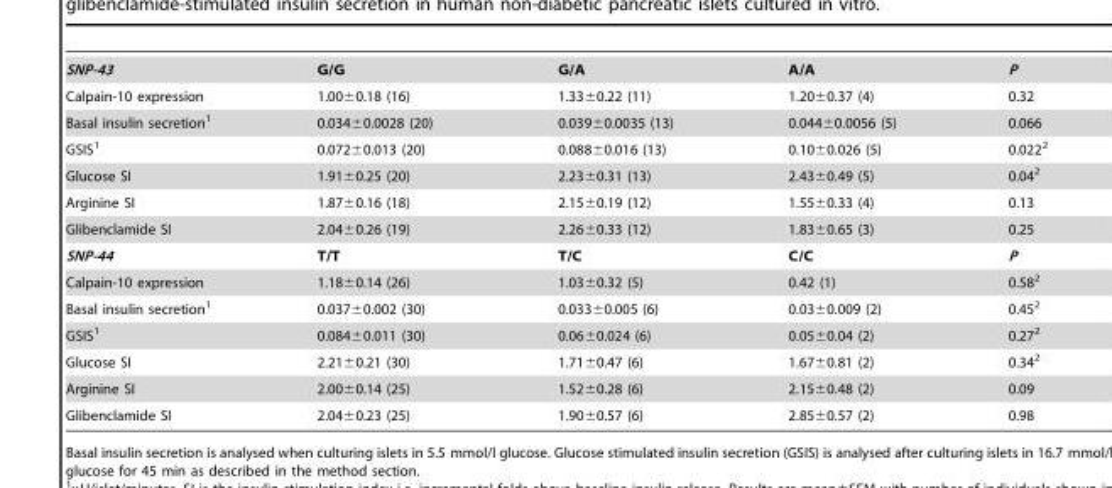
<table><tbody><tr><td>SNP-43</td><td>G/G</td><td>G/A</td><td>A/A</td><td>P</td></tr><tr><td>Calpain-10 expression</td><td>1.00±0.18 (16)</td><td>1.33±0.22 (11)</td><td>1.20±0.37 (4)</td><td>0.32</td></tr><tr><td>Basal insulin secretion<sup>1</sup></td><td>0.034±0.0028 (20)</td><td>0.039±0.0035 (13)</td><td>0.044±0.0056 (5)</td><td>0.066</td></tr><tr><td>GSIS<sup>1</sup></td><td>0.072±0.013 (20)</td><td>0.088±0.016 (13)</td><td>0.10±0.026 (5)</td><td>0.022<sup>2</sup></td></tr><tr><td>Glucose SI</td><td>1.91±0.25 (20)</td><td>2.23±0.31 (13)</td><td>2.43±0.49 (5)</td><td>0.04<sup>2</sup></td></tr><tr><td>Arginine SI</td><td>1.87±0.16 (18)</td><td>2.15±0.19 (12)</td><td>1.55±0.33 (4)</td><td>0.13</td></tr><tr><td>Glibenclamide SI</td><td>2.04±0.26 (19)</td><td>2.26±0.33 (12)</td><td>1.83±0.65 (3)</td><td>0.25</td></tr><tr><td>SNP-44</td><td>T/T</td><td>T/C</td><td>C/C</td><td>P</td></tr><tr><td>Calpain-10 expression</td><td>1.18±0.14 (26)</td><td>1.03±0.32 (5)</td><td>0.42 (1)</td><td>0.58<sup>2</sup></td></tr><tr><td>Basal insulin secretion<sup>1</sup></td><td>0.037±0.002 (30)</td><td>0.033±0.005 (6)</td><td>0.03±0.009 (2)</td><td>0.45<sup>2</sup></td></tr><tr><td>GSIS<sup>1</sup></td><td>0.084±0.011 (30)</td><td>0.06±0.024 (6)</td><td>0.05±0.04 (2)</td><td>0.27<sup>2</sup></td></tr><tr><td>Glucose SI</td><td>2.21±0.21 (30)</td><td>1.71±0.47 (6)</td><td>1.67±0.81 (2)</td><td>0.34<sup>2</sup></td></tr><tr><td>Arginine SI</td><td>2.00±0.14 (25)</td><td>1.52±0.28 (6)</td><td>2.15±0.48 (2)</td><td>0.09</td></tr><tr><td>Glibenclamide SI</td><td>2.04±0.23 (25)</td><td>1.90±0.57 (6)</td><td>2.85±0.57 (2)</td><td>0.98</td></tr></tbody></table>